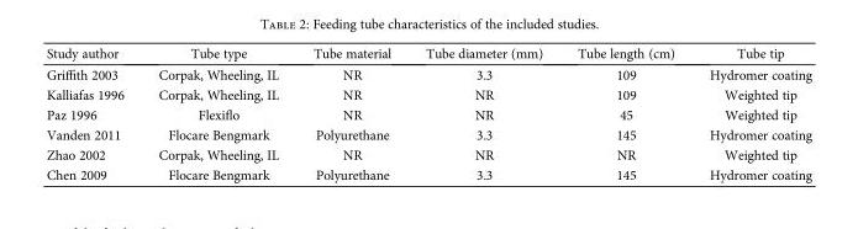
<table><thead><tr><td>Study author</td><td>Tube type</td><td>Tube material</td><td>Tube diameter (mm)</td><td>Tube length (cm)</td><td>Tube tip</td></tr></thead><tbody><tr><td>Griffith 2003</td><td>Corpak, Wheeling, IL</td><td>NR</td><td>3.3</td><td>109</td><td>Hydromer coating</td></tr><tr><td>Kalliafas 1996</td><td>Corpak, Wheeling, IL</td><td>NR</td><td>NR</td><td>109</td><td>Weighted tip</td></tr><tr><td>Paz 1996</td><td>Flexiflo</td><td>NR</td><td>NR</td><td>45</td><td>Weighted tip</td></tr><tr><td>Vanden 2011</td><td>Flocare Bengmark</td><td>Polyurethane</td><td>3.3</td><td>145</td><td>Hydromer coating</td></tr><tr><td>Zhao 2002</td><td>Corpak, Wheeling, IL</td><td>NR</td><td>NR</td><td>NR</td><td>Weighted tip</td></tr><tr><td>Chen 2009</td><td>Flocare Bengmark</td><td>Polyurethane</td><td>3.3</td><td>145</td><td>Hydromer coating</td></tr></tbody></table>